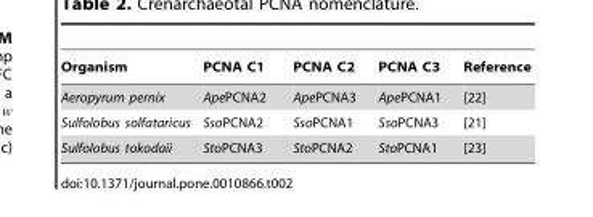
<table><thead><tr><td>Organism</td><td>PCNA C1</td><td>PCNA C2</td><td>PCNA C3</td><td>Reference</td></tr></thead><tbody><tr><td>Aeropyrum pernix</td><td>ApePCNA2</td><td>ApePCNA3</td><td>ApePCNA1</td><td>[22]</td></tr><tr><td>Sulfolobus solfataricus</td><td>SsoPCNA2</td><td>SsoPCNA1</td><td>SsoPCNA3</td><td>[21]</td></tr><tr><td>Sulfolobus tokodaii</td><td>StoPCNA3</td><td>StoPCNA2</td><td>StoPCNA1</td><td>[23]</td></tr></tbody></table>